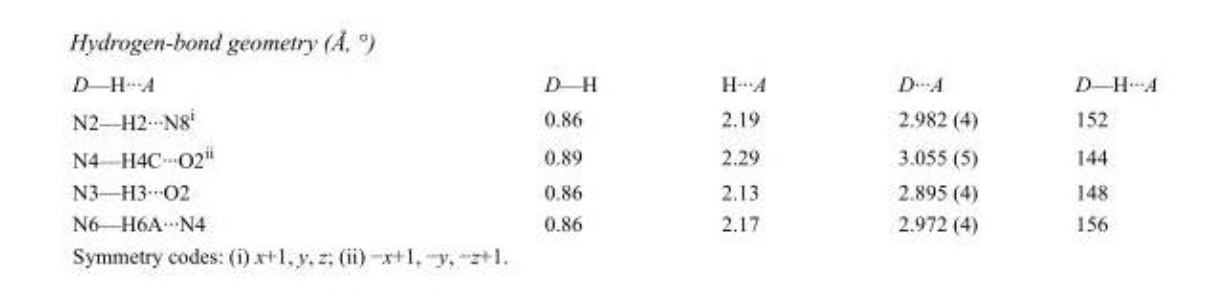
<table><tbody><tr><td>D—H···A</td><td>D—H</td><td>H···A</td><td>D···A</td><td>D—H···A</td></tr><tr><td>N2—H2···N8<sup>i</sup></td><td>0.86</td><td>2.19</td><td>2.982 (4)</td><td>152</td></tr><tr><td>N4—H4C···O2<sup>ii</sup></td><td>0.89</td><td>2.29</td><td>3.055 (5)</td><td>144</td></tr><tr><td>N3—H3···O2</td><td>0.86</td><td>2.13</td><td>2.895 (4)</td><td>148</td></tr><tr><td>N6—H6A···N4</td><td>0.86</td><td>2.17</td><td>2.972 (4)</td><td>156</td></tr></tbody></table>